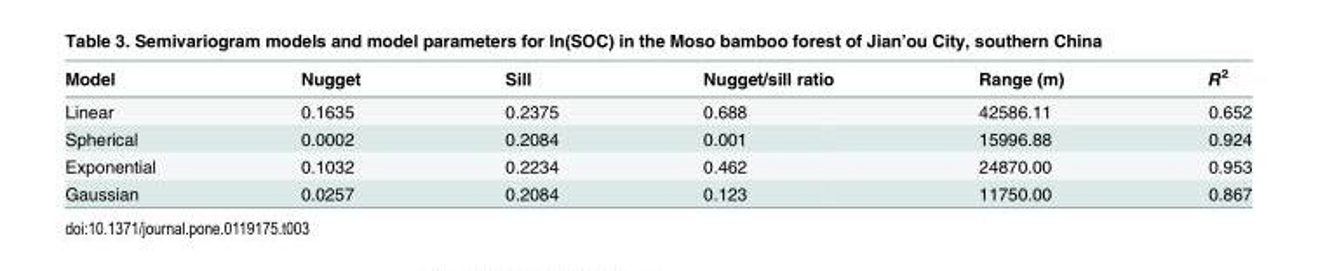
<table><thead><tr><td>Model</td><td>Nugget</td><td>Sill</td><td>Nugget/sill ratio</td><td>Range (m)</td><td>R<sup>2</sup></td></tr></thead><tbody><tr><td>Linear</td><td>0.1635</td><td>0.2375</td><td>0.688</td><td>42586.11</td><td>0.652</td></tr><tr><td>Spherical</td><td>0.0002</td><td>0.2084</td><td>0.001</td><td>15996.88</td><td>0.924</td></tr><tr><td>Exponential</td><td>0.1032</td><td>0.2234</td><td>0.462</td><td>24870.00</td><td>0.953</td></tr><tr><td>Gaussian</td><td>0.0257</td><td>0.2084</td><td>0.123</td><td>11750.00</td><td>0.867</td></tr></tbody></table>